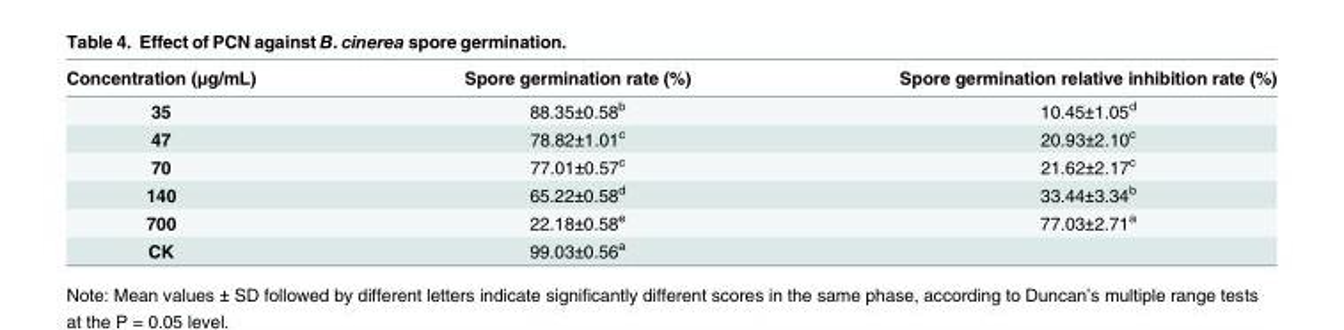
<table><thead><tr><td>Concentration (μg/mL)</td><td>Spore germination rate (%)</td><td>Spore germination relative inhibition rate (%)</td></tr></thead><tbody><tr><td>35</td><td>88.35±0.58<sup>b</sup></td><td>10.45±1.05<sup>d</sup></td></tr><tr><td>47</td><td>78.82±1.01<sup>c</sup></td><td>20.93±2.10<sup>c</sup></td></tr><tr><td>70</td><td>77.01±0.57<sup>c</sup></td><td>21.62±2.17<sup>c</sup></td></tr><tr><td>140</td><td>65.22±0.58<sup>d</sup></td><td>33.44±3.34<sup>b</sup></td></tr><tr><td>700</td><td>22.18±0.58<sup>e</sup></td><td>77.03±2.71<sup>a</sup></td></tr><tr><td>CK</td><td>99.03±0.56<sup>a</sup></td><td></td></tr></tbody></table>